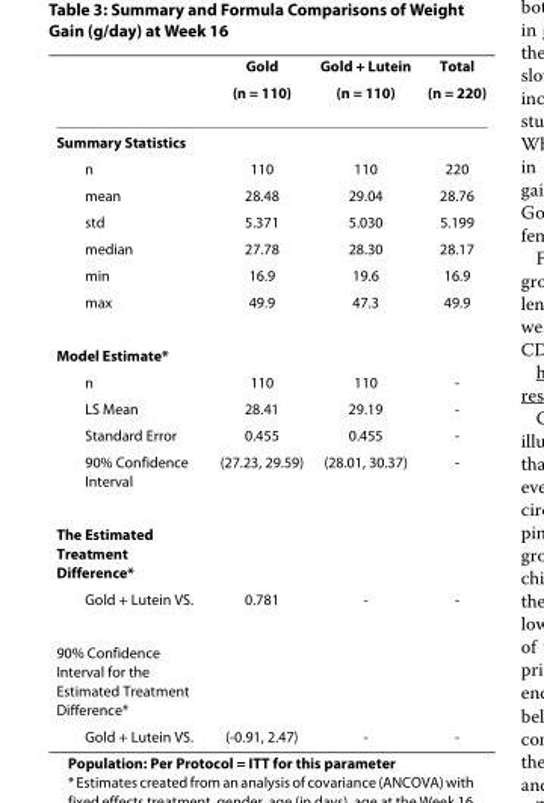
<table><thead><tr><td rowspan="2"></td><td rowspan="2">Gold (n = 110)</td><td rowspan="2">Gold + Lutein (n = 110)</td><td rowspan="2">Total (n = 220)</td></tr><tr></tr></thead><tbody><tr><td colspan="4">Summary Statistics</td></tr><tr><td>n</td><td>110</td><td>110</td><td>220</td></tr><tr><td>mean</td><td>28.48</td><td>29.04</td><td>28.76</td></tr><tr><td>std</td><td>5.371</td><td>5.030</td><td>5.199</td></tr><tr><td>median</td><td>27.78</td><td>28.30</td><td>28.17</td></tr><tr><td>min</td><td>16.9</td><td>19.6</td><td>16.9</td></tr><tr><td>max</td><td>49.9</td><td>47.3</td><td>49.9</td></tr><tr><td colspan="4">Model Estimate*</td></tr><tr><td>n</td><td>110</td><td>110</td><td>-</td></tr><tr><td>LS Mean</td><td>28.41</td><td>29.19</td><td>-</td></tr><tr><td>Standard Error</td><td>0.455</td><td>0.455</td><td>-</td></tr><tr><td>90% Confidence Interval</td><td>(27.23, 29.59)</td><td>(28.01, 30.37)</td><td>-</td></tr><tr><td colspan="4">The Estimated Treatment Difference*</td></tr><tr><td>Gold + Lutein VS.</td><td>0.781</td><td>-</td><td>-</td></tr><tr><td colspan="4">90% Confidence Interval for the Estimated Treatment Difference*</td></tr><tr><td>Gold + Lutein VS.</td><td>(-0.91, 2.47)</td><td>-</td><td>-</td></tr></tbody></table>